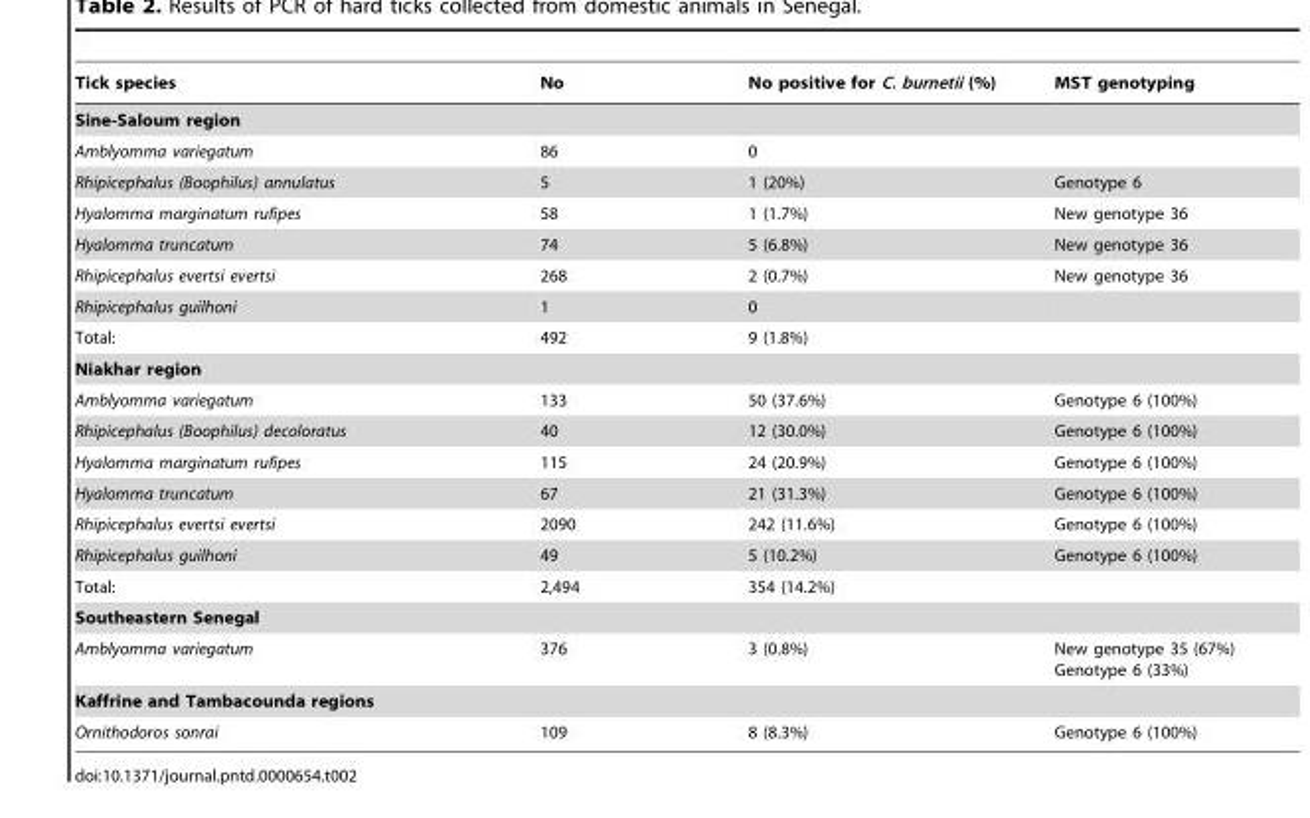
<table><thead><tr><td>Tick species</td><td>No</td><td>No positive for C. burnetii (%)</td><td>MST genotyping</td></tr></thead><tbody><tr><td colspan="4">Sine-Saloum region</td></tr><tr><td>Amblyomma variegatum</td><td>86</td><td>0</td><td></td></tr><tr><td>Rhipicephalus (Boophilus) annulatus</td><td>5</td><td>1 (20%)</td><td>Genotype 6</td></tr><tr><td>Hyalomma marginatum rufipes</td><td>58</td><td>1 (1.7%)</td><td>New genotype 36</td></tr><tr><td>Hyalomma truncatum</td><td>74</td><td>5 (6.8%)</td><td>New genotype 36</td></tr><tr><td>Rhipicephalus evertsi evertsi</td><td>268</td><td>2 (0.7%)</td><td>New genotype 36</td></tr><tr><td>Rhipicephalus guilhoni</td><td>1</td><td>0</td><td></td></tr><tr><td>Total:</td><td>492</td><td>9 (1.8%)</td><td></td></tr><tr><td colspan="4">Niakhar region</td></tr><tr><td>Amblyomma variegatum</td><td>133</td><td>50 (37.6%)</td><td>Genotype 6 (100%)</td></tr><tr><td>Rhipicephalus (Boophilus) decoloratus</td><td>40</td><td>12 (30.0%)</td><td>Genotype 6 (100%)</td></tr><tr><td>Hyalomma marginatum rufipes</td><td>115</td><td>24 (20.9%)</td><td>Genotype 6 (100%)</td></tr><tr><td>Hyalomma truncatum</td><td>67</td><td>21 (31.3%)</td><td>Genotype 6 (100%)</td></tr><tr><td>Rhipicephalus evertsi evertsi</td><td>2090</td><td>242 (11.6%)</td><td>Genotype 6 (100%)</td></tr><tr><td>Rhipicephalus guilhoni</td><td>49</td><td>5 (10.2%)</td><td>Genotype 6 (100%)</td></tr><tr><td>Total:</td><td>2,494</td><td>354 (14.2%)</td><td></td></tr><tr><td colspan="4">Southeastern Senegal</td></tr><tr><td>Amblyomma variegatum</td><td>376</td><td>3 (0.8%)</td><td>New genotype 35 (67%) Genotype 6 (33%)</td></tr><tr><td colspan="4">Kaffrine and Tambacounda regions</td></tr><tr><td>Ornithodoros sonrai</td><td>109</td><td>8 (8.3%)</td><td>Genotype 6 (100%)</td></tr></tbody></table>